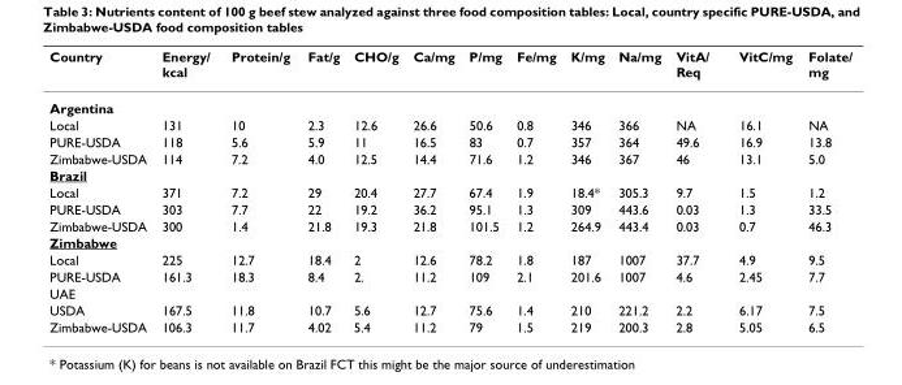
<table><thead><tr><td>Country</td><td>Energy/ kcal</td><td>Protein/g</td><td>Fat/g</td><td>CHO/g</td><td>Ca/mg</td><td>P/mg</td><td>Fe/mg</td><td>K/mg</td><td>Na/mg</td><td>VitA/ Req</td><td>VitC/mg</td><td>Folate/ mg</td></tr></thead><tbody><tr><td colspan="13">Argentina</td></tr><tr><td>Local</td><td>131</td><td>10</td><td>2.3</td><td>12.6</td><td>26.6</td><td>50.6</td><td>0.8</td><td>346</td><td>366</td><td>NA</td><td>16.1</td><td>NA</td></tr><tr><td>PURE-USDA</td><td>118</td><td>5.6</td><td>5.9</td><td>11</td><td>16.5</td><td>83</td><td>0.7</td><td>357</td><td>364</td><td>49.6</td><td>16.9</td><td>13.8</td></tr><tr><td>Zimbabwe-USDA</td><td>114</td><td>7.2</td><td>4.0</td><td>12.5</td><td>14.4</td><td>71.6</td><td>1.2</td><td>346</td><td>367</td><td>46</td><td>13.1</td><td>5.0</td></tr><tr><td colspan="13">Brazil</td></tr><tr><td>Local</td><td>371</td><td>7.2</td><td>29</td><td>20.4</td><td>27.7</td><td>67.4</td><td>1.9</td><td>18.4*</td><td>305.3</td><td>9.7</td><td>1.5</td><td>1.2</td></tr><tr><td>PURE-USDA</td><td>303</td><td>7.7</td><td>22</td><td>19.2</td><td>36.2</td><td>95.1</td><td>1.3</td><td>309</td><td>443.6</td><td>0.03</td><td>1.3</td><td>33.5</td></tr><tr><td>Zimbabwe-USDA</td><td>300</td><td>1.4</td><td>21.8</td><td>19.3</td><td>21.8</td><td>101.5</td><td>1.2</td><td>264.9</td><td>443.4</td><td>0.03</td><td>0.7</td><td>46.3</td></tr><tr><td colspan="13">Zimbabwe</td></tr><tr><td>Local</td><td>225</td><td>12.7</td><td>18.4</td><td>2</td><td>12.6</td><td>78.2</td><td>1.8</td><td>187</td><td>1007</td><td>37.7</td><td>4.9</td><td>9.5</td></tr><tr><td>PURE-USDA</td><td>161.3</td><td>18.3</td><td>8.4</td><td>2.</td><td>11.2</td><td>109</td><td>2.1</td><td>201.6</td><td>1007</td><td>4.6</td><td>2.45</td><td>7.7</td></tr><tr><td colspan="13">UAE</td></tr><tr><td>USDA</td><td>167.5</td><td>11.8</td><td>10.7</td><td>5.6</td><td>12.7</td><td>75.6</td><td>1.4</td><td>210</td><td>221.2</td><td>2.2</td><td>6.17</td><td>7.5</td></tr><tr><td>Zimbabwe-USDA</td><td>106.3</td><td>11.7</td><td>4.02</td><td>5.4</td><td>11.2</td><td>79</td><td>1.5</td><td>219</td><td>200.3</td><td>2.8</td><td>5.05</td><td>6.5</td></tr></tbody></table>